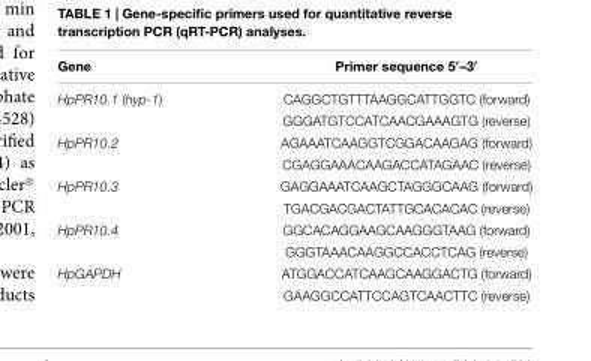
<table><thead><tr><td>Gene</td><td>Primer sequence 5′–3′</td></tr></thead><tbody><tr><td rowspan="2">HpPR10.1 (hyp-1)</td><td>CAGGCTGTTTAAGGCATTGGTC (forward)</td></tr><tr><td>GGGATGTCCATCAACGAAAGTG (reverse)</td></tr><tr><td rowspan="2">HpPR10.2</td><td>AGAAATCAAGGTCGGACAAGAG (forward)</td></tr><tr><td>CGAGGAAACAAGACCATAGAAC (reverse)</td></tr><tr><td rowspan="2">HpPR10.3</td><td>GAGGAAATCAAGCTAGGGCAAG (forward)</td></tr><tr><td>TGACGACGACTATTGCACACAC (reverse)</td></tr><tr><td rowspan="2">HpPR10.4</td><td>GGCACAGGAAGCAAGGGTAAG (forward)</td></tr><tr><td>GGGTAAACAAGGCCACCTCAG (reverse)</td></tr><tr><td rowspan="2">HpGAPDH</td><td>ATGGACCATCAAGCAAGGACTG (forward)</td></tr><tr><td>GAAGGCCATTCCAGTCAACTTC (reverse)</td></tr></tbody></table>